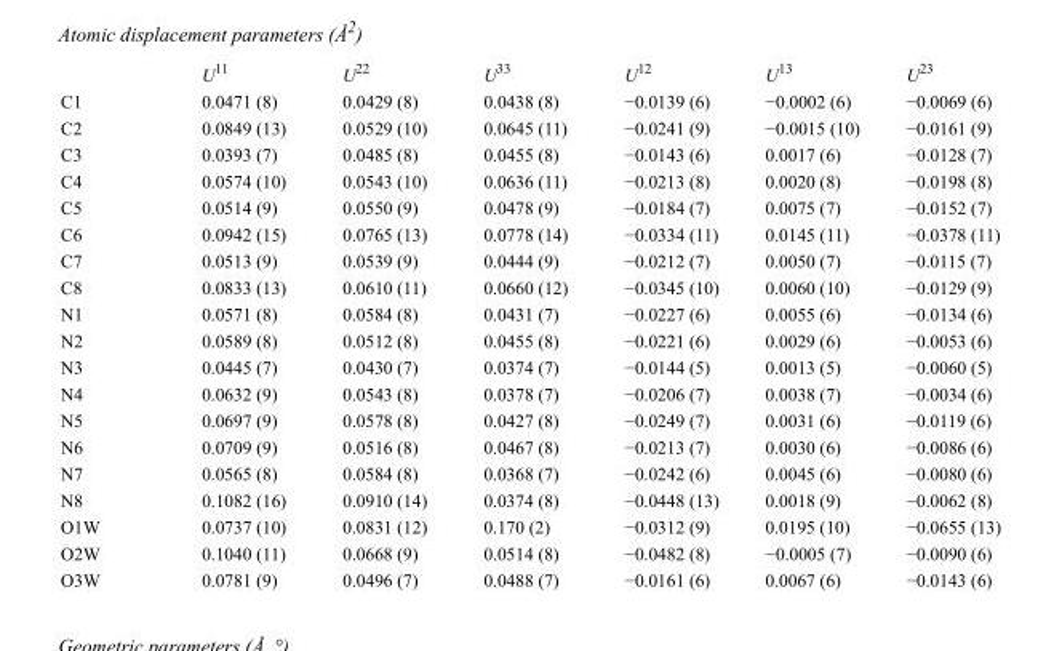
<table><thead><tr><td></td><td>U<sup>11</sup></td><td>U<sup>22</sup></td><td>U<sup>33</sup></td><td>U<sup>12</sup></td><td>U<sup>13</sup></td><td>U<sup>23</sup></td></tr></thead><tbody><tr><td>C1</td><td>0.0471 (8)</td><td>0.0429 (8)</td><td>0.0438 (8)</td><td>−0.0139 (6)</td><td>−0.0002 (6)</td><td>−0.0069 (6)</td></tr><tr><td>C2</td><td>0.0849 (13)</td><td>0.0529 (10)</td><td>0.0645 (11)</td><td>−0.0241 (9)</td><td>−0.0015 (10)</td><td>−0.0161 (9)</td></tr><tr><td>C3</td><td>0.0393 (7)</td><td>0.0485 (8)</td><td>0.0455 (8)</td><td>−0.0143 (6)</td><td>0.0017 (6)</td><td>−0.0128 (7)</td></tr><tr><td>C4</td><td>0.0574 (10)</td><td>0.0543 (10)</td><td>0.0636 (11)</td><td>−0.0213 (8)</td><td>0.0020 (8)</td><td>−0.0198 (8)</td></tr><tr><td>C5</td><td>0.0514 (9)</td><td>0.0550 (9)</td><td>0.0478 (9)</td><td>−0.0184 (7)</td><td>0.0075 (7)</td><td>−0.0152 (7)</td></tr><tr><td>C6</td><td>0.0942 (15)</td><td>0.0765 (13)</td><td>0.0778 (14)</td><td>−0.0334 (11)</td><td>0.0145 (11)</td><td>−0.0378 (11)</td></tr><tr><td>C7</td><td>0.0513 (9)</td><td>0.0539 (9)</td><td>0.0444 (9)</td><td>−0.0212 (7)</td><td>0.0050 (7)</td><td>−0.0115 (7)</td></tr><tr><td>C8</td><td>0.0833 (13)</td><td>0.0610 (11)</td><td>0.0660 (12)</td><td>−0.0345 (10)</td><td>0.0060 (10)</td><td>−0.0129 (9)</td></tr><tr><td>N1</td><td>0.0571 (8)</td><td>0.0584 (8)</td><td>0.0431 (7)</td><td>−0.0227 (6)</td><td>0.0055 (6)</td><td>−0.0134 (6)</td></tr><tr><td>N2</td><td>0.0589 (8)</td><td>0.0512 (8)</td><td>0.0455 (8)</td><td>−0.0221 (6)</td><td>0.0029 (6)</td><td>−0.0053 (6)</td></tr><tr><td>N3</td><td>0.0445 (7)</td><td>0.0430 (7)</td><td>0.0374 (7)</td><td>−0.0144 (5)</td><td>0.0013 (5)</td><td>−0.0060 (5)</td></tr><tr><td>N4</td><td>0.0632 (9)</td><td>0.0543 (8)</td><td>0.0378 (7)</td><td>−0.0206 (7)</td><td>0.0038 (7)</td><td>−0.0034 (6)</td></tr><tr><td>N5</td><td>0.0697 (9)</td><td>0.0578 (8)</td><td>0.0427 (8)</td><td>−0.0249 (7)</td><td>0.0031 (6)</td><td>−0.0119 (6)</td></tr><tr><td>N6</td><td>0.0709 (9)</td><td>0.0516 (8)</td><td>0.0467 (8)</td><td>−0.0213 (7)</td><td>0.0030 (6)</td><td>−0.0086 (6)</td></tr><tr><td>N7</td><td>0.0565 (8)</td><td>0.0584 (8)</td><td>0.0368 (7)</td><td>−0.0242 (6)</td><td>0.0045 (6)</td><td>−0.0080 (6)</td></tr><tr><td>N8</td><td>0.1082 (16)</td><td>0.0910 (14)</td><td>0.0374 (8)</td><td>−0.0448 (13)</td><td>0.0018 (9)</td><td>−0.0062 (8)</td></tr><tr><td>O1W</td><td>0.0737 (10)</td><td>0.0831 (12)</td><td>0.170 (2)</td><td>−0.0312 (9)</td><td>0.0195 (10)</td><td>−0.0655 (13)</td></tr><tr><td>O2W</td><td>0.1040 (11)</td><td>0.0668 (9)</td><td>0.0514 (8)</td><td>−0.0482 (8)</td><td>−0.0005 (7)</td><td>−0.0090 (6)</td></tr><tr><td>O3W</td><td>0.0781 (9)</td><td>0.0496 (7)</td><td>0.0488 (7)</td><td>−0.0161 (6)</td><td>0.0067 (6)</td><td>−0.0143 (6)</td></tr></tbody></table>